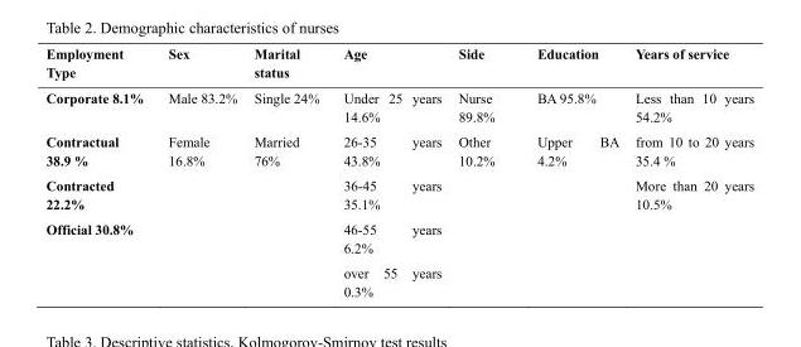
<table><thead><tr><td>Employment Type</td><td>Sex</td><td>Marital status</td><td>Age</td><td>Side</td><td>Education</td><td>Years of service</td></tr></thead><tbody><tr><td>Corporate 8.1%</td><td>Male 83.2%</td><td>Single 24%</td><td>Under 25 years 14.6%</td><td>Nurse 89.8%</td><td>BA 95.8%</td><td>Less than 10 years 54.2%</td></tr><tr><td>Contractual 38.9 %</td><td>Female 16.8%</td><td>Married 76%</td><td>26-35 years 43.8%</td><td>Other 10.2%</td><td>Upper BA 4.2%</td><td>from 10 to 20 years 35.4 %</td></tr><tr><td>Contracted 22.2%</td><td></td><td></td><td>36-45 years 35.1%</td><td></td><td></td><td>More than 20 years 10.5%</td></tr><tr><td rowspan="2">Official 30.8%</td><td></td><td></td><td>46-55 years 6.2%</td><td></td><td></td><td></td></tr><tr><td></td><td></td><td>over 55 years 0.3%</td><td></td><td></td><td></td></tr></tbody></table>